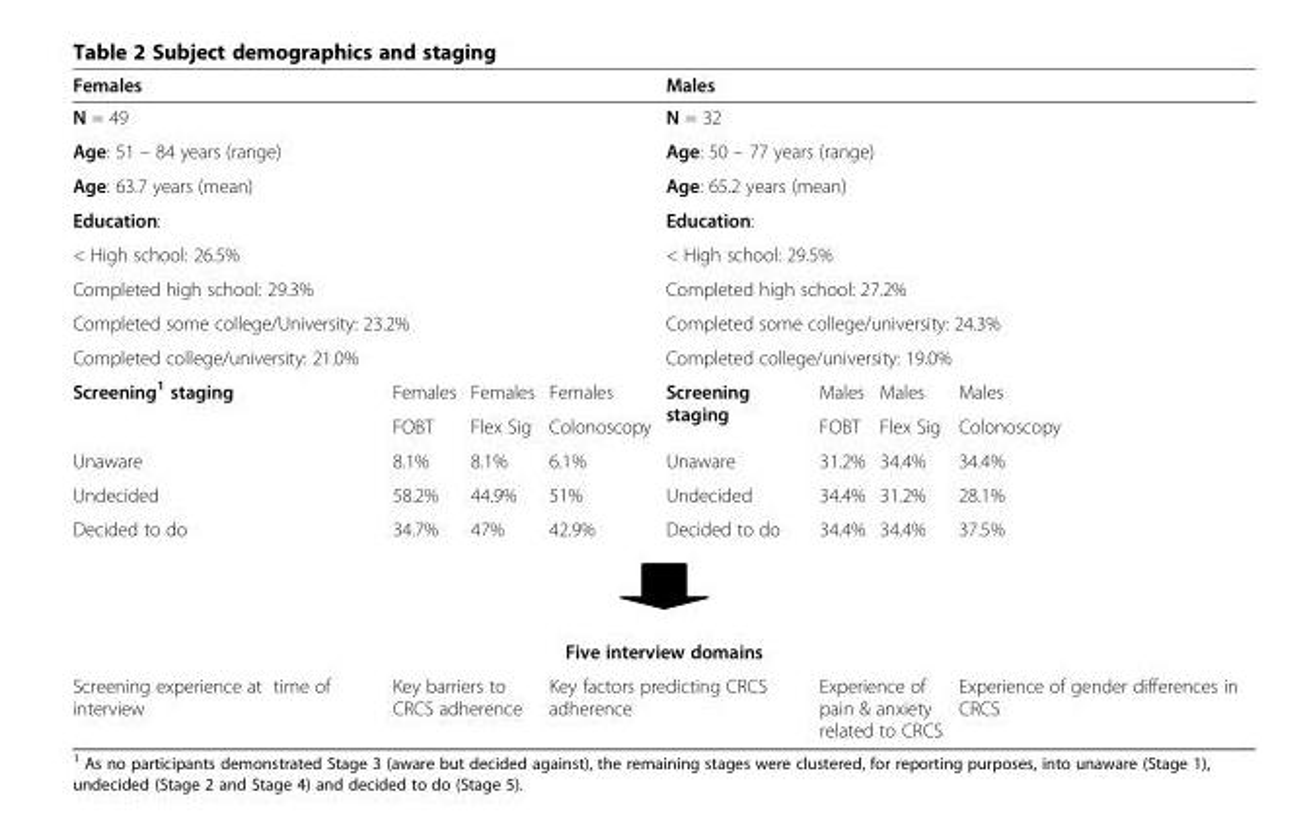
<table><thead><tr><td colspan="4">Females</td><td colspan="4">Males</td></tr></thead><tbody><tr><td colspan="4">N = 49</td><td colspan="4">N = 32</td></tr><tr><td colspan="4">Age: 51 – 84 years (range)</td><td colspan="4">Age: 50 – 77 years (range)</td></tr><tr><td colspan="4">Age: 63.7 years (mean)</td><td colspan="4">Age: 65.2 years (mean)</td></tr><tr><td colspan="4">Education:</td><td colspan="4">Education:</td></tr><tr><td colspan="4">&lt; High school: 26.5%</td><td colspan="4">&lt; High school: 29.5%</td></tr><tr><td colspan="4">Completed high school: 29.3%</td><td colspan="4">Completed high school: 27.2%</td></tr><tr><td colspan="4">Completed some college/University: 23.2%</td><td colspan="4">Completed some college/university: 24.3%</td></tr><tr><td colspan="4">Completed college/university: 21.0%</td><td colspan="4">Completed college/university: 19.0%</td></tr><tr><td rowspan="2">Screening<sup>1</sup> staging</td><td>Females</td><td>Females</td><td>Females</td><td rowspan="2">Screening staging</td><td>Males</td><td>Males</td><td>Males</td></tr><tr><td>FOBT</td><td>Flex Sig</td><td>Colonoscopy</td><td>FOBT</td><td>Flex Sig</td><td>Colonoscopy</td></tr><tr><td>Unaware</td><td>8.1%</td><td>8.1%</td><td>6.1%</td><td>Unaware</td><td>31.2%</td><td>34.4%</td><td>34.4%</td></tr><tr><td>Undecided</td><td>58.2%</td><td>44.9%</td><td>51%</td><td>Undecided</td><td>34.4%</td><td>31.2%</td><td>28.1%</td></tr><tr><td>Decided to do</td><td>34.7%</td><td>47%</td><td>42.9%</td><td>Decided to do</td><td>34.4%</td><td>34.4%</td><td>37.5%</td></tr><tr><td colspan="8">Five interview domains</td></tr><tr><td>Screening experience at time of interview</td><td colspan="2">Key barriers to CRCS adherence</td><td colspan="2">Key factors predicting CRCS adherence</td><td colspan="2">Experience of pain &amp; anxiety related to CRCS</td><td>Experience of gender differences in CRCS</td></tr></tbody></table>